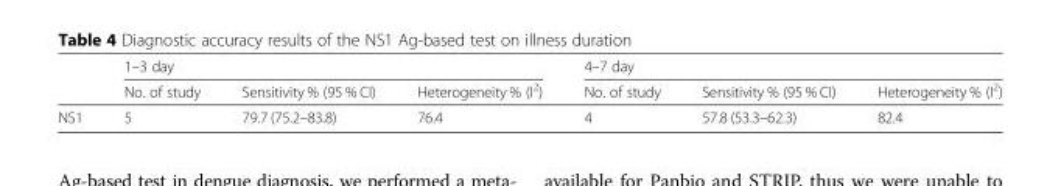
<table><thead><tr><td rowspan="2"></td><td colspan="3">1–3 day</td><td colspan="3">4–7 day</td></tr><tr><td>No. of study</td><td>Sensitivity % (95 % CI)</td><td>Heterogeneity % (I<sup>2</sup>)</td><td>No. of study</td><td>Sensitivity % (95 % CI)</td><td>Heterogeneity % (I<sup>2</sup>)</td></tr></thead><tbody><tr><td>NS1</td><td>5</td><td>79.7 (75.2–83.8)</td><td>76.4</td><td>4</td><td>57.8 (53.3–62.3)</td><td>82.4</td></tr></tbody></table>